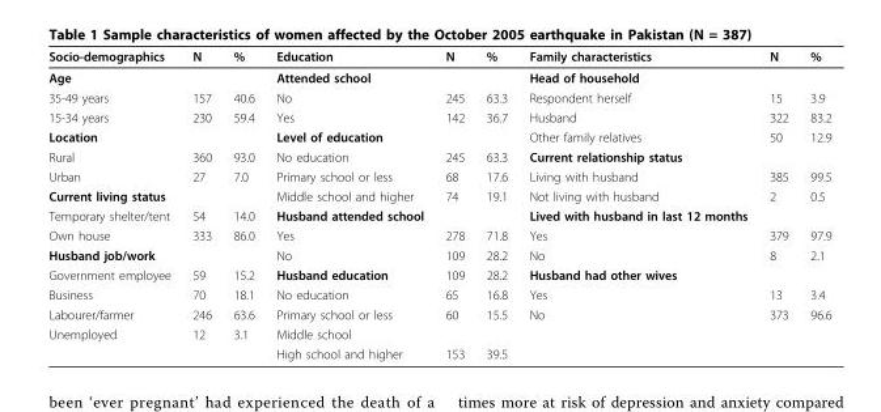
<table><thead><tr><td>Socio-demographics</td><td>N</td><td>%</td><td>Education</td><td>N</td><td>%</td><td>Family characteristics</td><td>N</td><td>%</td></tr></thead><tbody><tr><td>Age</td><td></td><td></td><td>Attended school</td><td></td><td></td><td>Head of household</td><td></td><td></td></tr><tr><td>35-49 years</td><td>157</td><td>40.6</td><td>No</td><td>245</td><td>63.3</td><td>Respondent herself</td><td>15</td><td>3.9</td></tr><tr><td>15-34 years</td><td>230</td><td>59.4</td><td>Yes</td><td>142</td><td>36.7</td><td>Husband</td><td>322</td><td>83.2</td></tr><tr><td>Location</td><td></td><td></td><td>Level of education</td><td></td><td></td><td>Other family relatives</td><td>50</td><td>12.9</td></tr><tr><td>Rural</td><td>360</td><td>93.0</td><td>No education</td><td>245</td><td>63.3</td><td>Current relationship status</td><td></td><td></td></tr><tr><td>Urban</td><td>27</td><td>7.0</td><td>Primary school or less</td><td>68</td><td>17.6</td><td>Living with husband</td><td>385</td><td>99.5</td></tr><tr><td>Current living status</td><td></td><td></td><td>Middle school and higher</td><td>74</td><td>19.1</td><td>Not living with husband</td><td>2</td><td>0.5</td></tr><tr><td>Temporary shelter/tent</td><td>54</td><td>14.0</td><td>Husband attended school</td><td></td><td></td><td>Lived with husband in last 12 months</td><td></td><td></td></tr><tr><td>Own house</td><td>333</td><td>86.0</td><td>Yes</td><td>278</td><td>71.8</td><td>Yes</td><td>379</td><td>97.9</td></tr><tr><td>Husband job/work</td><td></td><td></td><td>No</td><td>109</td><td>28.2</td><td>No</td><td>8</td><td>2.1</td></tr><tr><td>Government employee</td><td>59</td><td>15.2</td><td>Husband education</td><td>109</td><td>28.2</td><td>Husband had other wives</td><td></td><td></td></tr><tr><td>Business</td><td>70</td><td>18.1</td><td>No education</td><td>65</td><td>16.8</td><td>Yes</td><td>13</td><td>3.4</td></tr><tr><td>Labourer/farmer</td><td>246</td><td>63.6</td><td>Primary school or less</td><td>60</td><td>15.5</td><td>No</td><td>373</td><td>96.6</td></tr><tr><td rowspan="2">Unemployed</td><td>12</td><td>3.1</td><td>Middle school</td><td></td><td></td><td></td><td></td><td></td></tr><tr><td></td><td></td><td>High school and higher</td><td>153</td><td>39.5</td><td></td><td></td><td></td></tr></tbody></table>